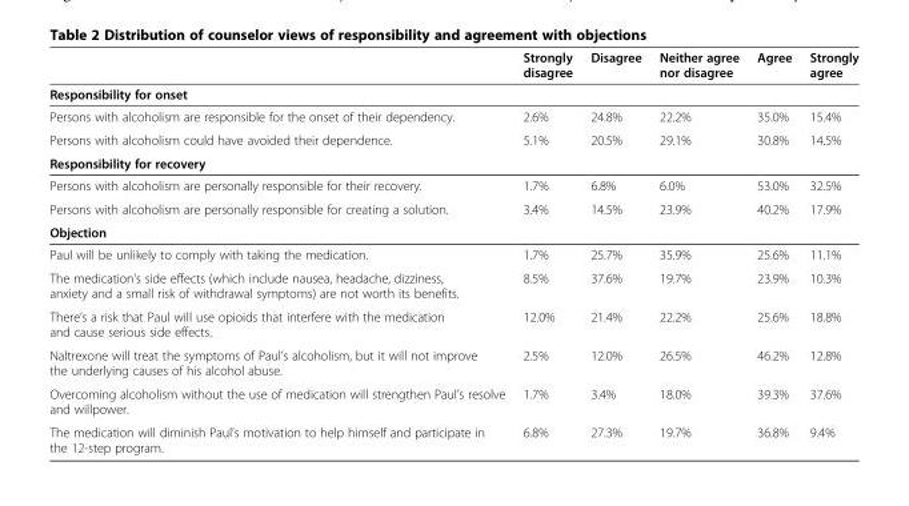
<table><thead><tr><td></td><td>Strongly disagree</td><td>Disagree</td><td>Neither agree nor disagree</td><td>Agree</td><td>Strongly agree</td></tr></thead><tbody><tr><td colspan="6">Responsibility for onset</td></tr><tr><td>Persons with alcoholism are responsible for the onset of their dependency.</td><td>2.6%</td><td>24.8%</td><td>22.2%</td><td>35.0%</td><td>15.4%</td></tr><tr><td>Persons with alcoholism could have avoided their dependence.</td><td>5.1%</td><td>20.5%</td><td>29.1%</td><td>30.8%</td><td>14.5%</td></tr><tr><td colspan="6">Responsibility for recovery</td></tr><tr><td>Persons with alcoholism are personally responsible for their recovery.</td><td>1.7%</td><td>6.8%</td><td>6.0%</td><td>53.0%</td><td>32.5%</td></tr><tr><td>Persons with alcoholism are personally responsible for creating a solution.</td><td>3.4%</td><td>14.5%</td><td>23.9%</td><td>40.2%</td><td>17.9%</td></tr><tr><td colspan="6">Objection</td></tr><tr><td>Paul will be unlikely to comply with taking the medication.</td><td>1.7%</td><td>25.7%</td><td>35.9%</td><td>25.6%</td><td>11.1%</td></tr><tr><td>The medication’s side effects (which include nausea, headache, dizziness, anxiety and a small risk of withdrawal symptoms) are not worth its benefits.</td><td>8.5%</td><td>37.6%</td><td>19.7%</td><td>23.9%</td><td>10.3%</td></tr><tr><td>There’s a risk that Paul will use opioids that interfere with the medication and cause serious side effects.</td><td>12.0%</td><td>21.4%</td><td>22.2%</td><td>25.6%</td><td>18.8%</td></tr><tr><td>Naltrexone will treat the symptoms of Paul’s alcoholism, but it will not improve the underlying causes of his alcohol abuse.</td><td>2.5%</td><td>12.0%</td><td>26.5%</td><td>46.2%</td><td>12.8%</td></tr><tr><td>Overcoming alcoholism without the use of medication will strengthen Paul’s resolve and willpower.</td><td>1.7%</td><td>3.4%</td><td>18.0%</td><td>39.3%</td><td>37.6%</td></tr><tr><td>The medication will diminish Paul’s motivation to help himself and participate in the 12-step program.</td><td>6.8%</td><td>27.3%</td><td>19.7%</td><td>36.8%</td><td>9.4%</td></tr></tbody></table>